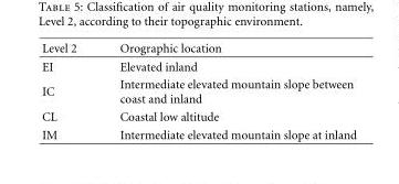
<table><thead><tr><td>Level 2</td><td>Orographic location</td></tr></thead><tbody><tr><td>EI</td><td>Elevated inland</td></tr><tr><td>IC</td><td>Intermediate elevated mountain slope between coast and inland</td></tr><tr><td>CL</td><td>Coastal low altitude</td></tr><tr><td>IM</td><td>Intermediate elevated mountain slope at inland</td></tr></tbody></table>